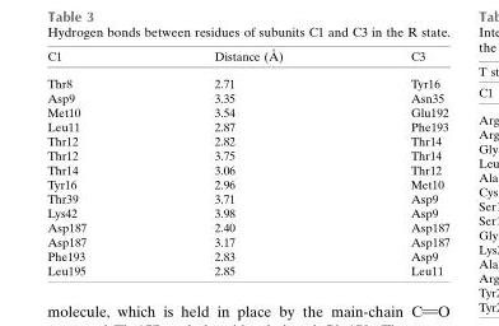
<table><thead><tr><td>C1</td><td>Distance (A˚ )</td><td>C3</td></tr></thead><tbody><tr><td>Thr8</td><td>2.71</td><td>Tyr16</td></tr><tr><td>Asp9</td><td>3.35</td><td>Asn35</td></tr><tr><td>Met10</td><td>3.54</td><td>Glu192</td></tr><tr><td>Leu11</td><td>2.87</td><td>Phe193</td></tr><tr><td>Thr12</td><td>2.82</td><td>Thr14</td></tr><tr><td>Thr12</td><td>3.75</td><td>Thr14</td></tr><tr><td>Thr14</td><td>3.06</td><td>Thr12</td></tr><tr><td>Tyr16</td><td>2.96</td><td>Met10</td></tr><tr><td>Thr39</td><td>3.71</td><td>Asp9</td></tr><tr><td>Lys42</td><td>3.98</td><td>Asp9</td></tr><tr><td>Asp187</td><td>2.40</td><td>Asp187</td></tr><tr><td>Asp187</td><td>3.17</td><td>Asp187</td></tr><tr><td>Phe193</td><td>2.83</td><td>Asp9</td></tr><tr><td>Leu195</td><td>2.85</td><td>Leu11</td></tr></tbody></table>